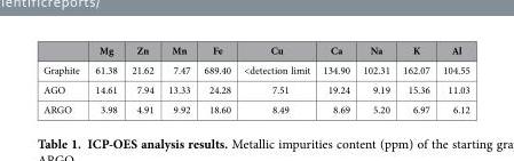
<table><thead><tr><td></td><td>Mg</td><td>Zn</td><td>Mn</td><td>Fe</td><td>Cu</td><td>Ca</td><td>Na</td><td>K</td><td>Al</td></tr></thead><tbody><tr><td>Graphite</td><td>61.38</td><td>21.62</td><td>7.47</td><td>689.40</td><td>&lt;detection limit</td><td>134.90</td><td>102.31</td><td>162.07</td><td>104.55</td></tr><tr><td>AGO</td><td>14.61</td><td>7.94</td><td>13.33</td><td>24.28</td><td>7.51</td><td>19.24</td><td>9.19</td><td>15.36</td><td>11.03</td></tr><tr><td>ARGO</td><td>3.98</td><td>4.91</td><td>9.92</td><td>18.60</td><td>8.49</td><td>8.69</td><td>5.20</td><td>6.97</td><td>6.12</td></tr></tbody></table>